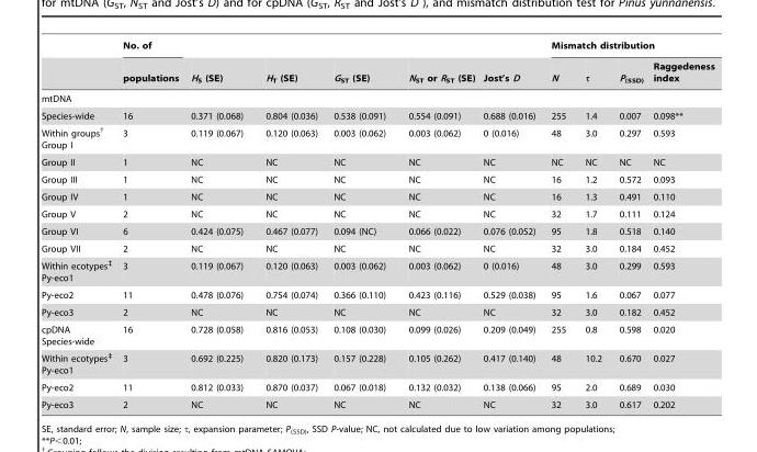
<table><thead><tr><td rowspan="2"></td><td rowspan="2">No. of populations</td><td rowspan="2">H<sub>S</sub> (SE)</td><td rowspan="2">H<sub>T</sub> (SE)</td><td rowspan="2">G<sub>ST</sub> (SE)</td><td rowspan="2">N<sub>ST</sub> or R<sub>ST</sub> (SE)</td><td rowspan="2">Jost’s D</td><td colspan="4">Mismatch distribution</td></tr><tr><td>N</td><td>τ</td><td>P<sub>(SSD)</sub></td><td>Raggedeness index</td></tr></thead><tbody><tr><td colspan="11">mtDNA</td></tr><tr><td>Species-wide</td><td>16</td><td>0.371 (0.068)</td><td>0.804 (0.036)</td><td>0.538 (0.091)</td><td>0.554 (0.091)</td><td>0.688 (0.016)</td><td>255</td><td>1.4</td><td>0.007</td><td>0.098**</td></tr><tr><td>Within groups† Group I</td><td>3</td><td>0.119 (0.067)</td><td>0.120 (0.063)</td><td>0.003 (0.062)</td><td>0.003 (0.062)</td><td>0 (0.016)</td><td>48</td><td>3.0</td><td>0.297</td><td>0.593</td></tr><tr><td>Group II</td><td>1</td><td>NC</td><td>NC</td><td>NC</td><td>NC</td><td>NC</td><td>NC</td><td>NC</td><td>NC</td><td>NC</td></tr><tr><td>Group III</td><td>1</td><td>NC</td><td>NC</td><td>NC</td><td>NC</td><td>NC</td><td>16</td><td>1.2</td><td>0.572</td><td>0.093</td></tr><tr><td>Group IV</td><td>1</td><td>NC</td><td>NC</td><td>NC</td><td>NC</td><td>NC</td><td>16</td><td>1.3</td><td>0.491</td><td>0.110</td></tr><tr><td>Group V</td><td>2</td><td>NC</td><td>NC</td><td>NC</td><td>NC</td><td>NC</td><td>32</td><td>1.7</td><td>0.111</td><td>0.124</td></tr><tr><td>Group VI</td><td>6</td><td>0.424 (0.075)</td><td>0.467 (0.077)</td><td>0.094 (NC)</td><td>0.066 (0.022)</td><td>0.076 (0.052)</td><td>95</td><td>1.8</td><td>0.518</td><td>0.140</td></tr><tr><td>Group VII</td><td>2</td><td>NC</td><td>NC</td><td>NC</td><td>NC</td><td>NC</td><td>32</td><td>3.0</td><td>0.184</td><td>0.452</td></tr><tr><td>Within ecotypes‡ Py-eco1</td><td>3</td><td>0.119 (0.067)</td><td>0.120 (0.063)</td><td>0.003 (0.062)</td><td>0.003 (0.062)</td><td>0 (0.016)</td><td>48</td><td>3.0</td><td>0.299</td><td>0.593</td></tr><tr><td>Py-eco2</td><td>11</td><td>0.478 (0.076)</td><td>0.754 (0.074)</td><td>0.366 (0.110)</td><td>0.423 (0.116)</td><td>0.529 (0.038)</td><td>95</td><td>1.6</td><td>0.067</td><td>0.077</td></tr><tr><td>Py-eco3</td><td>2</td><td>NC</td><td>NC</td><td>NC</td><td>NC</td><td>NC</td><td>32</td><td>3.0</td><td>0.182</td><td>0.452</td></tr><tr><td>cpDNA Species-wide</td><td>16</td><td>0.728 (0.058)</td><td>0.816 (0.053)</td><td>0.108 (0.030)</td><td>0.099 (0.026)</td><td>0.209 (0.049)</td><td>255</td><td>0.8</td><td>0.598</td><td>0.020</td></tr><tr><td>Within ecotypes‡ Py-eco1</td><td>3</td><td>0.692 (0.225)</td><td>0.820 (0.173)</td><td>0.157 (0.228)</td><td>0.105 (0.262)</td><td>0.417 (0.140)</td><td>48</td><td>10.2</td><td>0.670</td><td>0.027</td></tr><tr><td>Py-eco2</td><td>11</td><td>0.812 (0.033)</td><td>0.870 (0.037)</td><td>0.067 (0.018)</td><td>0.132 (0.032)</td><td>0.138 (0.066)</td><td>95</td><td>2.0</td><td>0.689</td><td>0.030</td></tr><tr><td>Py-eco3</td><td>2</td><td>NC</td><td>NC</td><td>NC</td><td>NC</td><td>NC</td><td>32</td><td>3.0</td><td>0.617</td><td>0.202</td></tr></tbody></table>